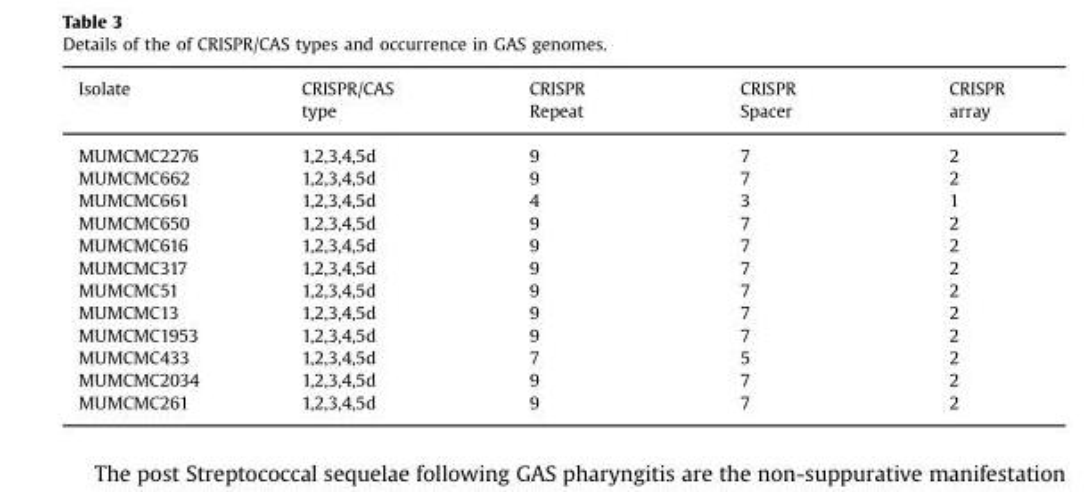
<table><thead><tr><td>Isolate</td><td>CRISPR/CAS type</td><td>CRISPR Repeat</td><td>CRISPR Spacer</td><td>CRISPR array</td></tr></thead><tbody><tr><td>MUMCMC2276</td><td>1,2,3,4,5d</td><td>9</td><td>7</td><td>2</td></tr><tr><td>MUMCMC662</td><td>1,2,3,4,5d</td><td>9</td><td>7</td><td>2</td></tr><tr><td>MUMCMC661</td><td>1,2,3,4,5d</td><td>4</td><td>3</td><td>1</td></tr><tr><td>MUMCMC650</td><td>1,2,3,4,5d</td><td>9</td><td>7</td><td>2</td></tr><tr><td>MUMCMC616</td><td>1,2,3,4,5d</td><td>9</td><td>7</td><td>2</td></tr><tr><td>MUMCMC317</td><td>1,2,3,4,5d</td><td>9</td><td>7</td><td>2</td></tr><tr><td>MUMCMC51</td><td>1,2,3,4,5d</td><td>9</td><td>7</td><td>2</td></tr><tr><td>MUMCMC13</td><td>1,2,3,4,5d</td><td>9</td><td>7</td><td>2</td></tr><tr><td>MUMCMC1953</td><td>1,2,3,4,5d</td><td>9</td><td>7</td><td>2</td></tr><tr><td>MUMCMC433</td><td>1,2,3,4,5d</td><td>7</td><td>5</td><td>2</td></tr><tr><td>MUMCMC2034</td><td>1,2,3,4,5d</td><td>9</td><td>7</td><td>2</td></tr><tr><td>MUMCMC261</td><td>1,2,3,4,5d</td><td>9</td><td>7</td><td>2</td></tr></tbody></table>